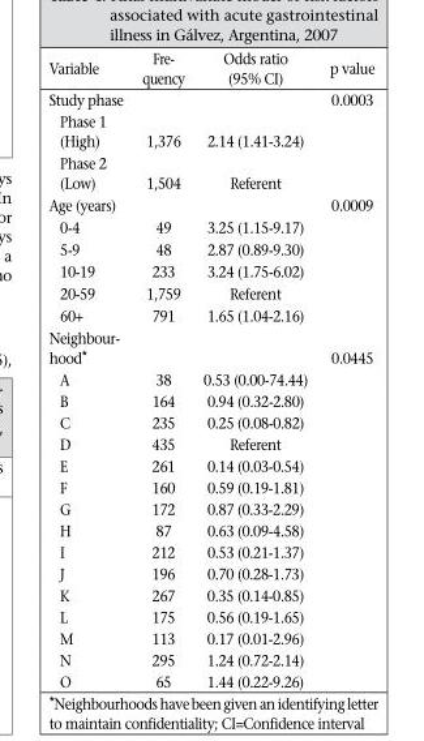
<table><thead><tr><td>Variable</td><td>Fre- quency</td><td>Odds ratio (95% CI)</td><td>p value</td></tr></thead><tbody><tr><td>Study phase</td><td></td><td></td><td>0.0003</td></tr><tr><td>Phase 1 (High)</td><td>1,376</td><td>2.14 (1.41-3.24)</td><td></td></tr><tr><td>Phase 2 (Low)</td><td>1,504</td><td>Referent</td><td></td></tr><tr><td>Age (years)</td><td></td><td></td><td>0.0009</td></tr><tr><td>0-4</td><td>49</td><td>3.25 (1.15-9.17)</td><td></td></tr><tr><td>5-9</td><td>48</td><td>2.87 (0.89-9.30)</td><td></td></tr><tr><td>10-19</td><td>233</td><td>3.24 (1.75-6.02)</td><td></td></tr><tr><td>20-59</td><td>1,759</td><td>Referent</td><td></td></tr><tr><td>60+</td><td>791</td><td>1.65 (1.04-2.16)</td><td></td></tr><tr><td>Neighbour- hood*</td><td></td><td></td><td>0.0445</td></tr><tr><td>A</td><td>38</td><td>0.53 (0.00-74.44)</td><td></td></tr><tr><td>B</td><td>164</td><td>0.94 (0.32-2.80)</td><td></td></tr><tr><td>C</td><td>235</td><td>0.25 (0.08-0.82)</td><td></td></tr><tr><td>D</td><td>435</td><td>Referent</td><td></td></tr><tr><td>E</td><td>261</td><td>0.14 (0.03-0.54)</td><td></td></tr><tr><td>F</td><td>160</td><td>0.59 (0.19-1.81)</td><td></td></tr><tr><td>G</td><td>172</td><td>0.87 (0.33-2.29)</td><td></td></tr><tr><td>H</td><td>87</td><td>0.63 (0.09-4.58)</td><td></td></tr><tr><td>I</td><td>212</td><td>0.53 (0.21-1.37)</td><td></td></tr><tr><td>J</td><td>196</td><td>0.70 (0.28-1.73)</td><td></td></tr><tr><td>K</td><td>267</td><td>0.35 (0.14-0.85)</td><td></td></tr><tr><td>L</td><td>175</td><td>0.56 (0.19-1.65)</td><td></td></tr><tr><td>M</td><td>113</td><td>0.17 (0.01-2.96)</td><td></td></tr><tr><td>N</td><td>295</td><td>1.24 (0.72-2.14)</td><td></td></tr><tr><td>O</td><td>65</td><td>1.44 (0.22-9.26)</td><td></td></tr></tbody></table>